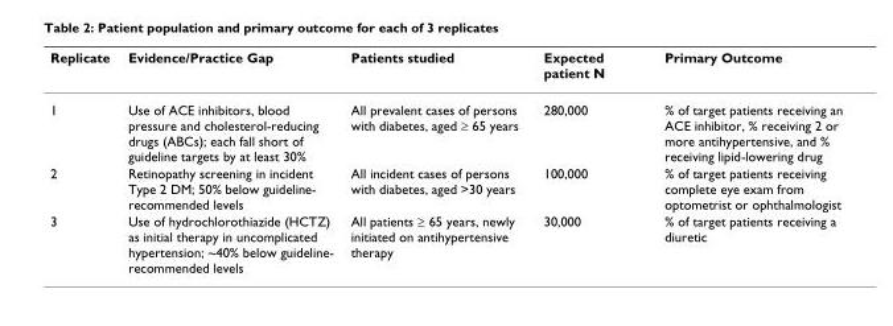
<table><thead><tr><td>Replicate</td><td>Evidence/Practice Gap</td><td>Patients studied</td><td>Expected patient N</td><td>Primary Outcome</td></tr></thead><tbody><tr><td>1</td><td>Use of ACE inhibitors, blood pressure and cholesterol-reducing drugs (ABCs); each fall short of guideline targets by at least 30%</td><td>All prevalent cases of persons with diabetes, aged ≥ 65 years</td><td>280,000</td><td>% of target patients receiving an ACE inhibitor, % receiving 2 or more antihypertensive, and % receiving lipid-lowering drug</td></tr><tr><td>2</td><td>Retinopathy screening in incident Type 2 DM; 50% below guideline- recommended levels</td><td>All incident cases of persons with diabetes, aged &gt;30 years</td><td>100,000</td><td>% of target patients receiving complete eye exam from optometrist or ophthalmologist</td></tr><tr><td>3</td><td>Use of hydrochlorothiazide (HCTZ) as initial therapy in uncomplicated hypertension; ~40% below guideline- recommended levels</td><td>All patients ≥ 65 years, newly initiated on antihypertensive therapy</td><td>30,000</td><td>% of target patients receiving a diuretic</td></tr></tbody></table>